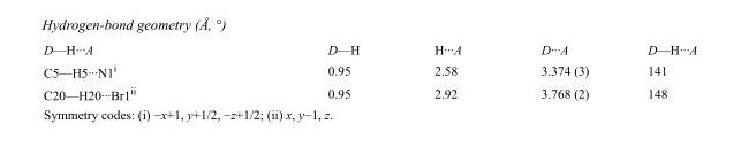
<table><tbody><tr><td>D—H···A</td><td>D—H</td><td>H···A</td><td>D···A</td><td>D—H···A</td></tr><tr><td>C5—H5···N1<sup>i</sup></td><td>0.95</td><td>2.58</td><td>3.374 (3)</td><td>141</td></tr><tr><td>C20—H20···Br1<sup>ii</sup></td><td>0.95</td><td>2.92</td><td>3.768 (2)</td><td>148</td></tr></tbody></table>